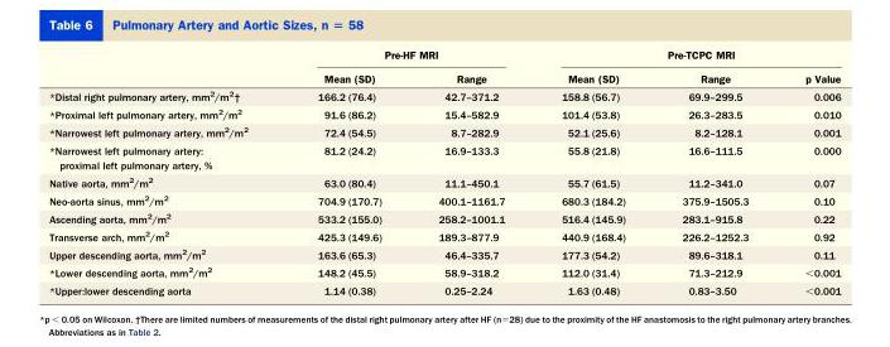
<table><thead><tr><td rowspan="2"></td><td colspan="2">Pre-HF MRI</td><td colspan="3">Pre-TCPC MRI</td></tr><tr><td>Mean (SD)</td><td>Range</td><td>Mean (SD)</td><td>Range</td><td>p Value</td></tr></thead><tbody><tr><td>*Distal right pulmonary artery, mm2/m2†</td><td>166.2 (76.4)</td><td>42.7–371.2</td><td>158.8 (56.7)</td><td>69.9–299.5</td><td>0.006</td></tr><tr><td>*Proximal left pulmonary artery, mm2/m2</td><td>91.6 (86.2)</td><td>15.4–582.9</td><td>101.4 (53.8)</td><td>26.3–283.5</td><td>0.010</td></tr><tr><td>*Narrowest left pulmonary artery, mm2/m2</td><td>72.4 (54.5)</td><td>8.7–282.9</td><td>52.1 (25.6)</td><td>8.2–128.1</td><td>0.001</td></tr><tr><td>*Narrowest left pulmonary artery: proximal left pulmonary artery, %</td><td>81.2 (24.2)</td><td>16.9–133.3</td><td>55.8 (21.8)</td><td>16.6–111.5</td><td>0.000</td></tr><tr><td>Native aorta, mm<sup>2</sup>/m<sup>2</sup></td><td>63.0 (80.4)</td><td>11.1–450.1</td><td>55.7 (61.5)</td><td>11.2–341.0</td><td>0.07</td></tr><tr><td>Neo-aorta sinus, mm<sup>2</sup>/m<sup>2</sup></td><td>704.9 (170.7)</td><td>400.1–1161.7</td><td>680.3 (184.2)</td><td>375.9–1505.3</td><td>0.10</td></tr><tr><td>Ascending aorta, mm<sup>2</sup>/m<sup>2</sup></td><td>533.2 (155.0)</td><td>258.2–1001.1</td><td>516.4 (145.9)</td><td>283.1–915.8</td><td>0.22</td></tr><tr><td>Transverse arch, mm<sup>2</sup>/m<sup>2</sup></td><td>425.3 (149.6)</td><td>189.3–877.9</td><td>440.9 (168.4)</td><td>226.2–1252.3</td><td>0.92</td></tr><tr><td>Upper descending aorta, mm<sup>2</sup>/m<sup>2</sup></td><td>163.6 (65.3)</td><td>46.4–335.7</td><td>177.3 (54.2)</td><td>89.6–318.1</td><td>0.11</td></tr><tr><td>*Lower descending aorta, mm2/m2</td><td>148.2 (45.5)</td><td>58.9–318.2</td><td>112.0 (31.4)</td><td>71.3–212.9</td><td>&lt;0.001</td></tr><tr><td>*Upper:lower descending aorta</td><td>1.14 (0.38)</td><td>0.25–2.24</td><td>1.63 (0.48)</td><td>0.83–3.50</td><td>&lt;0.001</td></tr></tbody></table>